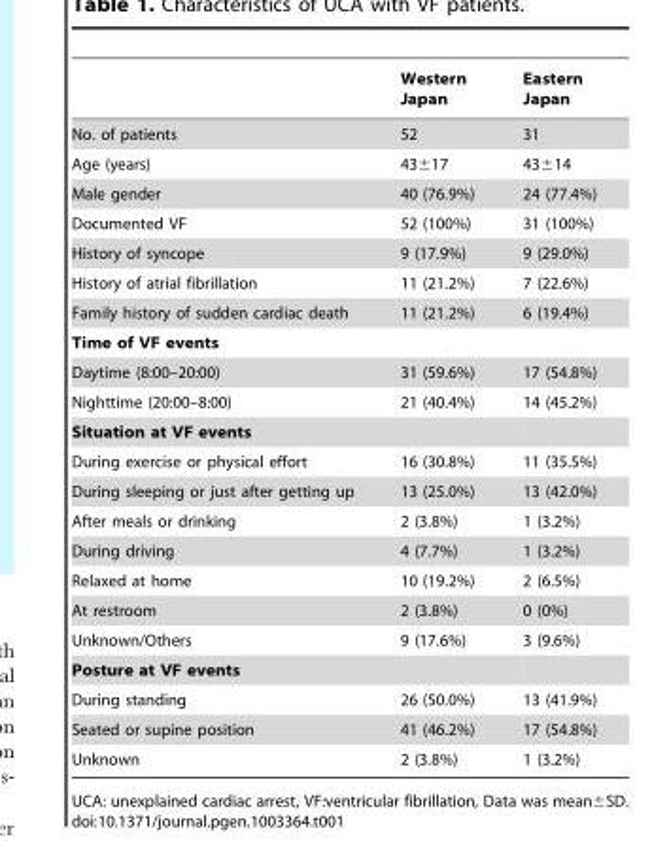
<table><thead><tr><td></td><td>Western Japan</td><td>Eastern Japan</td></tr></thead><tbody><tr><td>No. of patients</td><td>52</td><td>31</td></tr><tr><td>Age (years)</td><td>43±17</td><td>43±14</td></tr><tr><td>Male gender</td><td>40 (76.9%)</td><td>24 (77.4%)</td></tr><tr><td>Documented VF</td><td>52 (100%)</td><td>31 (100%)</td></tr><tr><td>History of syncope</td><td>9 (17.9%)</td><td>9 (29.0%)</td></tr><tr><td>History of atrial fibrillation</td><td>11 (21.2%)</td><td>7 (22.6%)</td></tr><tr><td>Family history of sudden cardiac death</td><td>11 (21.2%)</td><td>6 (19.4%)</td></tr><tr><td colspan="3">Time of VF events</td></tr><tr><td>Daytime (8:00–20:00)</td><td>31 (59.6%)</td><td>17 (54.8%)</td></tr><tr><td>Nighttime (20:00–8:00)</td><td>21 (40.4%)</td><td>14 (45.2%)</td></tr><tr><td colspan="3">Situation at VF events</td></tr><tr><td>During exercise or physical effort</td><td>16 (30.8%)</td><td>11 (35.5%)</td></tr><tr><td>During sleeping or just after getting up</td><td>13 (25.0%)</td><td>13 (42.0%)</td></tr><tr><td>After meals or drinking</td><td>2 (3.8%)</td><td>1 (3.2%)</td></tr><tr><td>During driving</td><td>4 (7.7%)</td><td>1 (3.2%)</td></tr><tr><td>Relaxed at home</td><td>10 (19.2%)</td><td>2 (6.5%)</td></tr><tr><td>At restroom</td><td>2 (3.8%)</td><td>0 (0%)</td></tr><tr><td>Unknown/Others</td><td>9 (17.6%)</td><td>3 (9.6%)</td></tr><tr><td colspan="3">Posture at VF events</td></tr><tr><td>During standing</td><td>26 (50.0%)</td><td>13 (41.9%)</td></tr><tr><td>Seated or supine position</td><td>41 (46.2%)</td><td>17 (54.8%)</td></tr><tr><td>Unknown</td><td>2 (3.8%)</td><td>1 (3.2%)</td></tr></tbody></table>